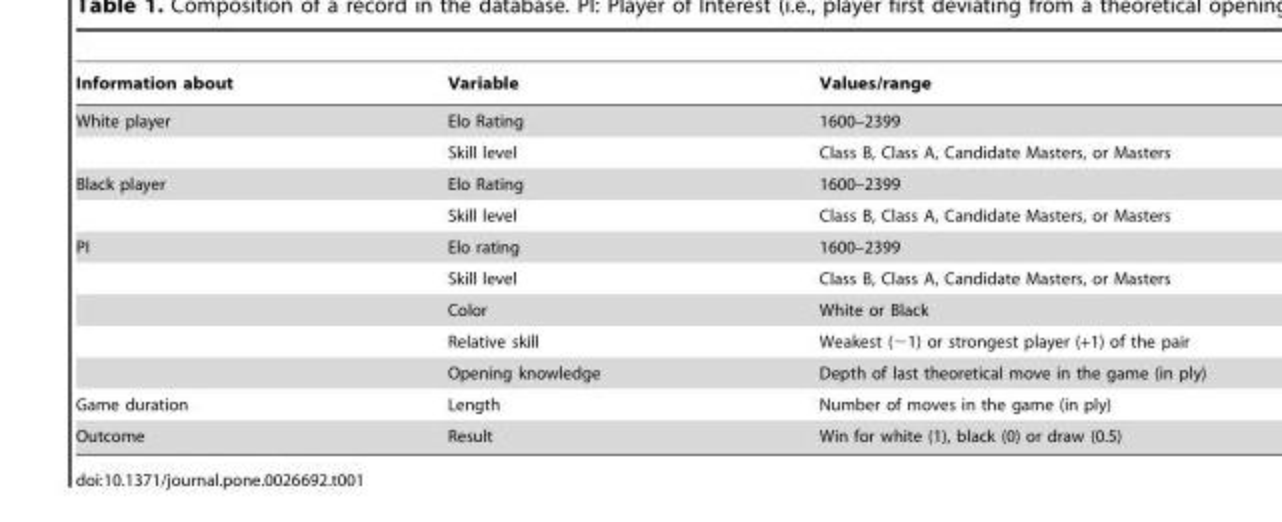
<table><thead><tr><td>Information about</td><td>Variable</td><td>Values/range</td></tr></thead><tbody><tr><td rowspan="2">White player</td><td>Elo Rating</td><td>1600–2399</td></tr><tr><td>Skill level</td><td>Class B, Class A, Candidate Masters, or Masters</td></tr><tr><td rowspan="2">Black player</td><td>Elo Rating</td><td>1600–2399</td></tr><tr><td>Skill level</td><td>Class B, Class A, Candidate Masters, or Masters</td></tr><tr><td rowspan="5">PI</td><td>Elo rating</td><td>1600–2399</td></tr><tr><td>Skill level</td><td>Class B, Class A, Candidate Masters, or Masters</td></tr><tr><td>Color</td><td>White or Black</td></tr><tr><td>Relative skill</td><td>Weakest (−1) or strongest player (+1) of the pair</td></tr><tr><td>Opening knowledge</td><td>Depth of last theoretical move in the game (in ply)</td></tr><tr><td>Game duration</td><td>Length</td><td>Number of moves in the game (in ply)</td></tr><tr><td>Outcome</td><td>Result</td><td>Win for white (1), black (0) or draw (0.5)</td></tr></tbody></table>